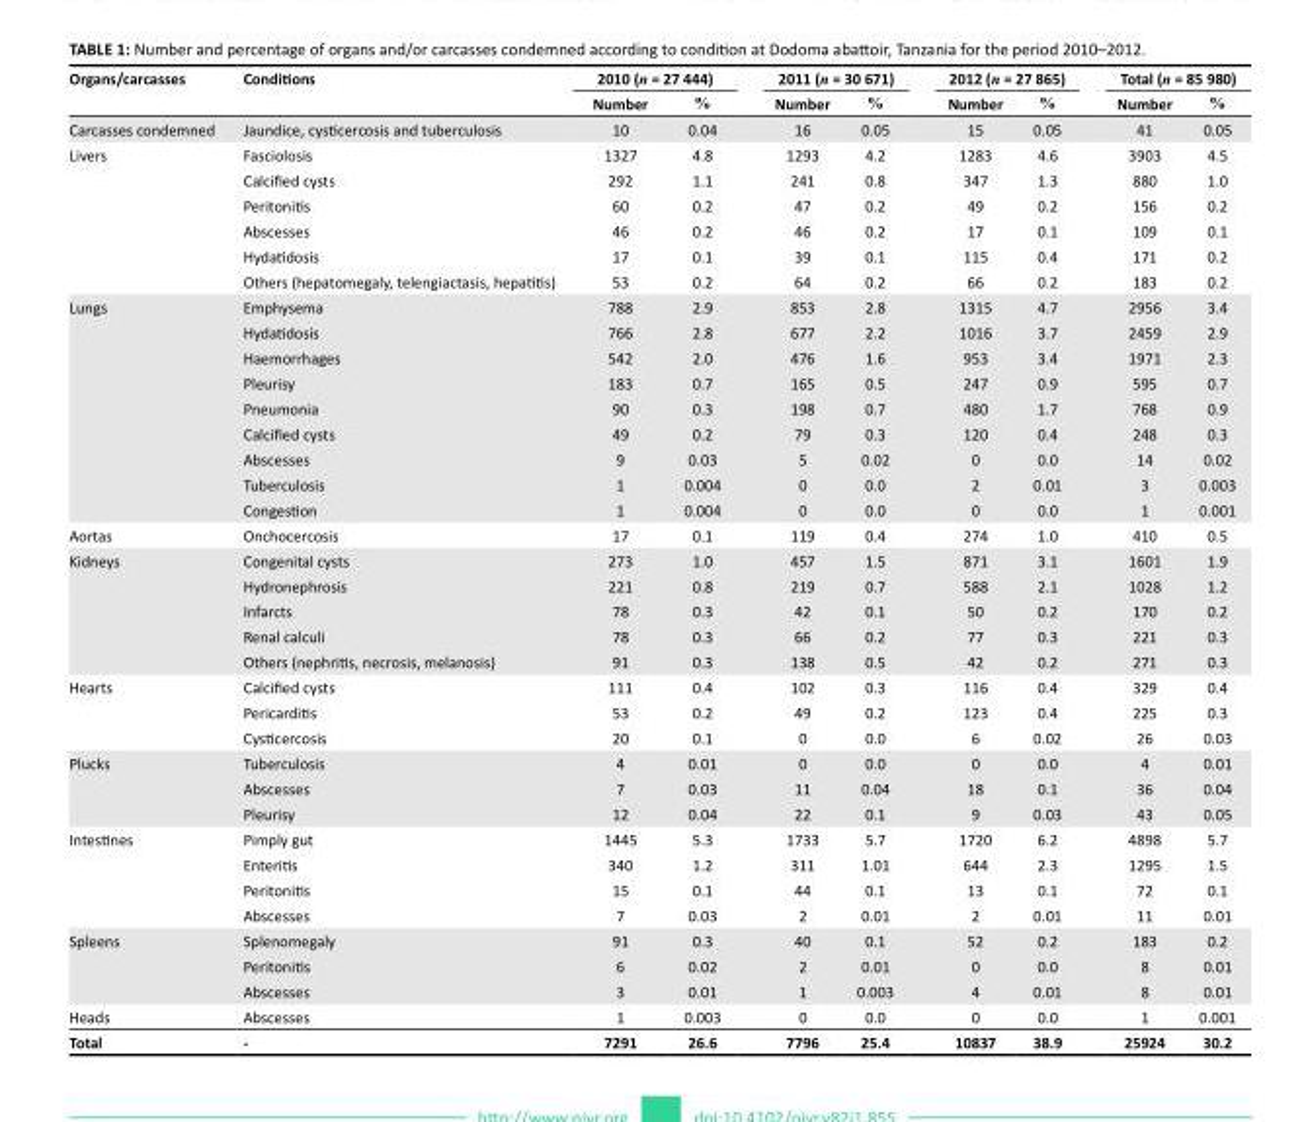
<table><thead><tr><td rowspan="2">Organs/carcasses</td><td rowspan="2">Conditions</td><td colspan="2">2010 (n = 27 444)</td><td colspan="2">2011 (n = 30 671)</td><td colspan="2">2012 (n = 27 865)</td><td colspan="2">Total (n = 85 980)</td></tr><tr><td>Number</td><td>%</td><td>Number</td><td>%</td><td>Number</td><td>%</td><td>Number</td><td>%</td></tr></thead><tbody><tr><td>Carcasses condemned</td><td>Jaundice, cysticercosis and tuberculosis</td><td>10</td><td>0.04</td><td>16</td><td>0.05</td><td>15</td><td>0.05</td><td>41</td><td>0.05</td></tr><tr><td rowspan="6">Livers</td><td>Fasciolosis</td><td>1327</td><td>4.8</td><td>1293</td><td>4.2</td><td>1283</td><td>4.6</td><td>3903</td><td>4.5</td></tr><tr><td>Calcified cysts</td><td>292</td><td>1.1</td><td>241</td><td>0.8</td><td>347</td><td>1.3</td><td>880</td><td>1.0</td></tr><tr><td>Peritonitis</td><td>60</td><td>0.2</td><td>47</td><td>0.2</td><td>49</td><td>0.2</td><td>156</td><td>0.2</td></tr><tr><td>Abscesses</td><td>46</td><td>0.2</td><td>46</td><td>0.2</td><td>17</td><td>0.1</td><td>109</td><td>0.1</td></tr><tr><td>Hydatidosis</td><td>17</td><td>0.1</td><td>39</td><td>0.1</td><td>115</td><td>0.4</td><td>171</td><td>0.2</td></tr><tr><td>Others (hepatomegaly, telengiactasis, hepatitis)</td><td>53</td><td>0.2</td><td>64</td><td>0.2</td><td>66</td><td>0.2</td><td>183</td><td>0.2</td></tr><tr><td rowspan="9">Lungs</td><td>Emphysema</td><td>788</td><td>2.9</td><td>853</td><td>2.8</td><td>1315</td><td>4.7</td><td>2956</td><td>3.4</td></tr><tr><td>Hydatidosis</td><td>766</td><td>2.8</td><td>677</td><td>2.2</td><td>1016</td><td>3.7</td><td>2459</td><td>2.9</td></tr><tr><td>Haemorrhages</td><td>542</td><td>2.0</td><td>476</td><td>1.6</td><td>953</td><td>3.4</td><td>1971</td><td>2.3</td></tr><tr><td>Pleurisy</td><td>183</td><td>0.7</td><td>165</td><td>0.5</td><td>247</td><td>0.9</td><td>595</td><td>0.7</td></tr><tr><td>Pneumonia</td><td>90</td><td>0.3</td><td>198</td><td>0.7</td><td>480</td><td>1.7</td><td>768</td><td>0.9</td></tr><tr><td>Calcified cysts</td><td>49</td><td>0.2</td><td>79</td><td>0.3</td><td>120</td><td>0.4</td><td>248</td><td>0.3</td></tr><tr><td>Abscesses</td><td>9</td><td>0.03</td><td>5</td><td>0.02</td><td>0</td><td>0.0</td><td>14</td><td>0.02</td></tr><tr><td>Tuberculosis</td><td>1</td><td>0.004</td><td>0</td><td>0.0</td><td>2</td><td>0.01</td><td>3</td><td>0.003</td></tr><tr><td>Congestion</td><td>1</td><td>0.004</td><td>0</td><td>0.0</td><td>0</td><td>0.0</td><td>1</td><td>0.001</td></tr><tr><td>Aortas</td><td>Onchocercosis</td><td>17</td><td>0.1</td><td>119</td><td>0.4</td><td>274</td><td>1.0</td><td>410</td><td>0.5</td></tr><tr><td rowspan="5">Kidneys</td><td>Congenital cysts</td><td>273</td><td>1.0</td><td>457</td><td>1.5</td><td>871</td><td>3.1</td><td>1601</td><td>1.9</td></tr><tr><td>Hydronephrosis</td><td>221</td><td>0.8</td><td>219</td><td>0.7</td><td>588</td><td>2.1</td><td>1028</td><td>1.2</td></tr><tr><td>Infarcts</td><td>78</td><td>0.3</td><td>42</td><td>0.1</td><td>50</td><td>0.2</td><td>170</td><td>0.2</td></tr><tr><td>Renal calculi</td><td>78</td><td>0.3</td><td>66</td><td>0.2</td><td>77</td><td>0.3</td><td>221</td><td>0.3</td></tr><tr><td>Others (nephritis, necrosis, melanosis)</td><td>91</td><td>0.3</td><td>138</td><td>0.5</td><td>42</td><td>0.2</td><td>271</td><td>0.3</td></tr><tr><td rowspan="3">Hearts</td><td>Calcified cysts</td><td>111</td><td>0.4</td><td>102</td><td>0.3</td><td>116</td><td>0.4</td><td>329</td><td>0.4</td></tr><tr><td>Pericarditis</td><td>53</td><td>0.2</td><td>49</td><td>0.2</td><td>123</td><td>0.4</td><td>225</td><td>0.3</td></tr><tr><td>Cysticercosis</td><td>20</td><td>0.1</td><td>0</td><td>0.0</td><td>6</td><td>0.02</td><td>26</td><td>0.03</td></tr><tr><td rowspan="3">Plucks</td><td>Tuberculosis</td><td>4</td><td>0.01</td><td>0</td><td>0.0</td><td>0</td><td>0.0</td><td>4</td><td>0.01</td></tr><tr><td>Abscesses</td><td>7</td><td>0.03</td><td>11</td><td>0.04</td><td>18</td><td>0.1</td><td>36</td><td>0.04</td></tr><tr><td>Pleurisy</td><td>12</td><td>0.04</td><td>22</td><td>0.1</td><td>9</td><td>0.03</td><td>43</td><td>0.05</td></tr><tr><td rowspan="4">Intestines</td><td>Pimply gut</td><td>1445</td><td>5.3</td><td>1733</td><td>5.7</td><td>1720</td><td>6.2</td><td>4898</td><td>5.7</td></tr><tr><td>Enteritis</td><td>340</td><td>1.2</td><td>311</td><td>1.01</td><td>644</td><td>2.3</td><td>1295</td><td>1.5</td></tr><tr><td>Peritonitis</td><td>15</td><td>0.1</td><td>44</td><td>0.1</td><td>13</td><td>0.1</td><td>72</td><td>0.1</td></tr><tr><td>Abscesses</td><td>7</td><td>0.03</td><td>2</td><td>0.01</td><td>2</td><td>0.01</td><td>11</td><td>0.01</td></tr><tr><td rowspan="3">Spleens</td><td>Splenomegaly</td><td>91</td><td>0.3</td><td>40</td><td>0.1</td><td>52</td><td>0.2</td><td>183</td><td>0.2</td></tr><tr><td>Peritonitis</td><td>6</td><td>0.02</td><td>2</td><td>0.01</td><td>0</td><td>0.0</td><td>8</td><td>0.01</td></tr><tr><td>Abscesses</td><td>3</td><td>0.01</td><td>1</td><td>0.003</td><td>4</td><td>0.01</td><td>8</td><td>0.01</td></tr><tr><td>Heads</td><td>Abscesses</td><td>1</td><td>0.003</td><td>0</td><td>0.0</td><td>0</td><td>0.0</td><td>1</td><td>0.001</td></tr><tr><td>Total</td><td>-</td><td>7291</td><td>26.6</td><td>7796</td><td>25.4</td><td>10837</td><td>38.9</td><td>25924</td><td>30.2</td></tr></tbody></table>